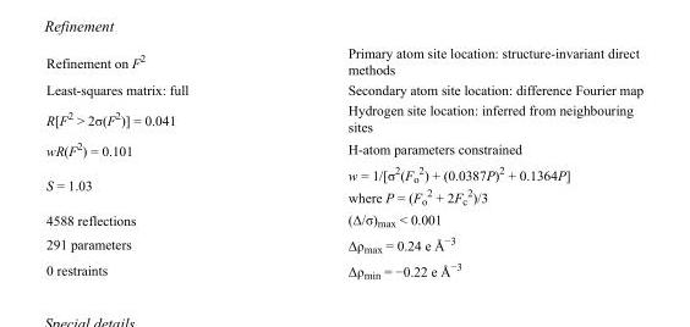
<table><tbody><tr><td>Refinement on F<sup>2</sup></td><td>Primary atom site location: structure-invariant direct methods</td></tr><tr><td>Least-squares matrix: full</td><td>Secondary atom site location: difference Fourier map</td></tr><tr><td>R[F<sup>2</sup> &gt; 2σ(F<sup>2</sup>)] = 0.041</td><td>Hydrogen site location: inferred from neighbouring sites</td></tr><tr><td>wR(F<sup>2</sup>) = 0.101</td><td>H-atom parameters constrained</td></tr><tr><td>S = 1.03</td><td>w = 1/[σ<sup>2</sup>(F<sub>o</sub> <sup>2</sup>) + (0.0387P)<sup>2</sup> + 0.1364P] where P = (F<sub>o</sub> <sup>2</sup> + 2F<sub>c</sub> <sup>2</sup>)/3</td></tr><tr><td>4588 reflections</td><td>(Δ/σ)<sub>max</sub> &lt; 0.001</td></tr><tr><td>291 parameters</td><td>Δρ<sub>max</sub> = 0.24 e Å<sup>−3</sup></td></tr><tr><td>0 restraints</td><td>Δρ<sub>min</sub> = −0.22 e Å<sup>−3</sup></td></tr></tbody></table>